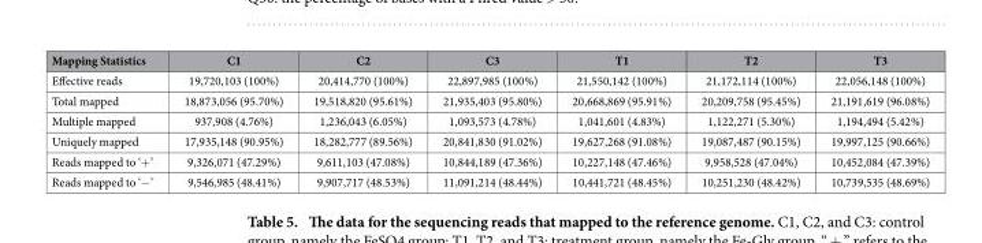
<table><thead><tr><td>Mapping Statistics</td><td>C1</td><td>C2</td><td>C3</td><td>T1</td><td>T2</td><td>T3</td></tr></thead><tbody><tr><td>Effective reads</td><td>19,720,103 (100%)</td><td>20,414,770 (100%)</td><td>22,897,985 (100%)</td><td>21,550,142 (100%)</td><td>21,172,114 (100%)</td><td>22,056,148 (100%)</td></tr><tr><td>Total mapped</td><td>18,873,056 (95.70%)</td><td>19,518,820 (95.61%)</td><td>21,935,403 (95.80%)</td><td>20,668,869 (95.91%)</td><td>20,209,758 (95.45%)</td><td>21,191,619 (96.08%)</td></tr><tr><td>Multiple mapped</td><td>937,908 (4.76%)</td><td>1,236,043 (6.05%)</td><td>1,093,573 (4.78%)</td><td>1,041,601 (4.83%)</td><td>1,122,271 (5.30%)</td><td>1,194,494 (5.42%)</td></tr><tr><td>Uniquely mapped</td><td>17,935,148 (90.95%)</td><td>18,282,777 (89.56%)</td><td>20,841,830 (91.02%)</td><td>19,627,268 (91.08%)</td><td>19,087,487 (90.15%)</td><td>19,997,125 (90.66%)</td></tr><tr><td>Reads mapped to ‘+’</td><td>9,326,071 (47.29%)</td><td>9,611,103 (47.08%)</td><td>10,844,189 (47.36%)</td><td>10,227,148 (47.46%)</td><td>9,958,528 (47.04%)</td><td>10,452,084 (47.39%)</td></tr><tr><td>Reads mapped to ‘−’</td><td>9,546,985 (48.41%)</td><td>9,907,717 (48.53%)</td><td>11,091,214 (48.44%)</td><td>10,441,721 (48.45%)</td><td>10,251,230 (48.42%)</td><td>10,739,535 (48.69%)</td></tr></tbody></table>